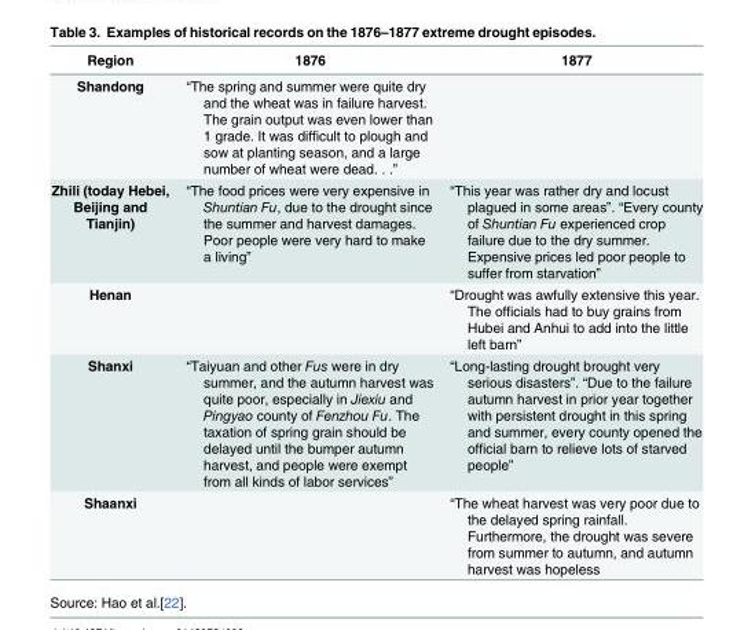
<table><thead><tr><td>Region</td><td>1876</td><td>1877</td></tr></thead><tbody><tr><td>Shandong</td><td>“The spring and summer were quite dry and the wheat was in failure harvest. The grain output was even lower than 1 grade. It was difficult to plough and sow at planting season, and a large number of wheat were dead. . .”</td><td></td></tr><tr><td>Zhili (today Hebei, Beijing and Tianjin)</td><td>“The food prices were very expensive in Shuntian Fu, due to the drought since the summer and harvest damages. Poor people were very hard to make a living”</td><td>“This year was rather dry and locust plagued in some areas”. “Every county of Shuntian Fu experienced crop failure due to the dry summer. Expensive prices led poor people to suffer from starvation”</td></tr><tr><td>Henan</td><td></td><td>“Drought was awfully extensive this year. The officials had to buy grains from Hubei and Anhui to add into the little left barn”</td></tr><tr><td>Shanxi</td><td>“Taiyuan and other Fus were in dry summer, and the autumn harvest was quite poor, especially in Jiexiu and Pingyao county of Fenzhou Fu. The taxation of spring grain should be delayed until the bumper autumn harvest, and people were exempt from all kinds of labor services”</td><td>“Long-lasting drought brought very serious disasters”. “Due to the failure autumn harvest in prior year together with persistent drought in this spring and summer, every county opened the official barn to relieve lots of starved people”</td></tr><tr><td>Shaanxi</td><td></td><td>“The wheat harvest was very poor due to the delayed spring rainfall. Furthermore, the drought was severe from summer to autumn, and autumn harvest was hopeless</td></tr></tbody></table>